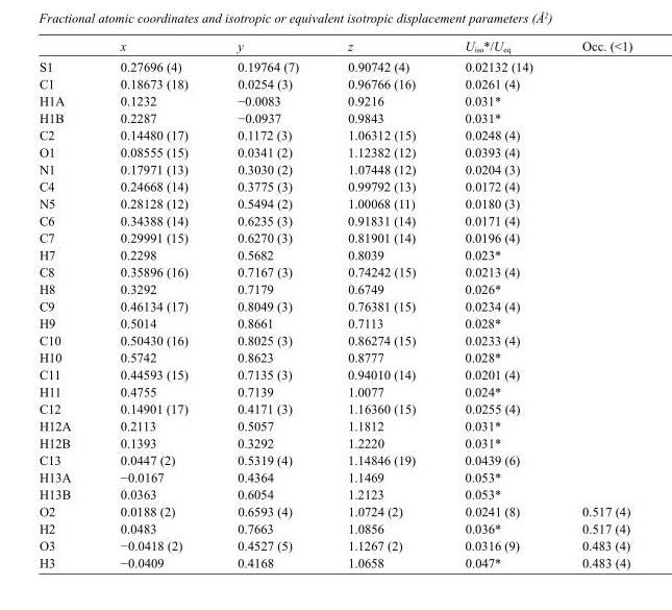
<table><thead><tr><td></td><td>x</td><td>y</td><td>z</td><td>U<sub>iso</sub>*/U<sub>eq</sub></td><td>Occ. (&lt;1)</td></tr></thead><tbody><tr><td>S1</td><td>0.27696 (4)</td><td>0.19764 (7)</td><td>0.90742 (4)</td><td>0.02132 (14)</td><td></td></tr><tr><td>C1</td><td>0.18673 (18)</td><td>0.0254 (3)</td><td>0.96766 (16)</td><td>0.0261 (4)</td><td></td></tr><tr><td>H1A</td><td>0.1232</td><td>−0.0083</td><td>0.9216</td><td>0.031*</td><td></td></tr><tr><td>H1B</td><td>0.2287</td><td>−0.0937</td><td>0.9843</td><td>0.031*</td><td></td></tr><tr><td>C2</td><td>0.14480 (17)</td><td>0.1172 (3)</td><td>1.06312 (15)</td><td>0.0248 (4)</td><td></td></tr><tr><td>O1</td><td>0.08555 (15)</td><td>0.0341 (2)</td><td>1.12382 (12)</td><td>0.0393 (4)</td><td></td></tr><tr><td>N1</td><td>0.17971 (13)</td><td>0.3030 (2)</td><td>1.07448 (12)</td><td>0.0204 (3)</td><td></td></tr><tr><td>C4</td><td>0.24668 (14)</td><td>0.3775 (3)</td><td>0.99792 (13)</td><td>0.0172 (4)</td><td></td></tr><tr><td>N5</td><td>0.28128 (12)</td><td>0.5494 (2)</td><td>1.00068 (11)</td><td>0.0180 (3)</td><td></td></tr><tr><td>C6</td><td>0.34388 (14)</td><td>0.6235 (3)</td><td>0.91831 (14)</td><td>0.0171 (4)</td><td></td></tr><tr><td>C7</td><td>0.29991 (15)</td><td>0.6270 (3)</td><td>0.81901 (14)</td><td>0.0196 (4)</td><td></td></tr><tr><td>H7</td><td>0.2298</td><td>0.5682</td><td>0.8039</td><td>0.023*</td><td></td></tr><tr><td>C8</td><td>0.35896 (16)</td><td>0.7167 (3)</td><td>0.74242 (15)</td><td>0.0213 (4)</td><td></td></tr><tr><td>H8</td><td>0.3292</td><td>0.7179</td><td>0.6749</td><td>0.026*</td><td></td></tr><tr><td>C9</td><td>0.46134 (17)</td><td>0.8049 (3)</td><td>0.76381 (15)</td><td>0.0234 (4)</td><td></td></tr><tr><td>H9</td><td>0.5014</td><td>0.8661</td><td>0.7113</td><td>0.028*</td><td></td></tr><tr><td>C10</td><td>0.50430 (16)</td><td>0.8025 (3)</td><td>0.86274 (15)</td><td>0.0233 (4)</td><td></td></tr><tr><td>H10</td><td>0.5742</td><td>0.8623</td><td>0.8777</td><td>0.028*</td><td></td></tr><tr><td>C11</td><td>0.44593 (15)</td><td>0.7135 (3)</td><td>0.94010 (14)</td><td>0.0201 (4)</td><td></td></tr><tr><td>H11</td><td>0.4755</td><td>0.7139</td><td>1.0077</td><td>0.024*</td><td></td></tr><tr><td>C12</td><td>0.14901 (17)</td><td>0.4171 (3)</td><td>1.16360 (15)</td><td>0.0255 (4)</td><td></td></tr><tr><td>H12A</td><td>0.2113</td><td>0.5057</td><td>1.1812</td><td>0.031*</td><td></td></tr><tr><td>H12B</td><td>0.1393</td><td>0.3292</td><td>1.2220</td><td>0.031*</td><td></td></tr><tr><td>C13</td><td>0.0447 (2)</td><td>0.5319 (4)</td><td>1.14846 (19)</td><td>0.0439 (6)</td><td></td></tr><tr><td>H13A</td><td>−0.0167</td><td>0.4364</td><td>1.1469</td><td>0.053*</td><td></td></tr><tr><td>H13B</td><td>0.0363</td><td>0.6054</td><td>1.2123</td><td>0.053*</td><td></td></tr><tr><td>O2</td><td>0.0188 (2)</td><td>0.6593 (4)</td><td>1.0724 (2)</td><td>0.0241 (8)</td><td>0.517 (4)</td></tr><tr><td>H2</td><td>0.0483</td><td>0.7663</td><td>1.0856</td><td>0.036*</td><td>0.517 (4)</td></tr><tr><td>O3</td><td>−0.0418 (2)</td><td>0.4527 (5)</td><td>1.1267 (2)</td><td>0.0316 (9)</td><td>0.483 (4)</td></tr><tr><td>H3</td><td>−0.0409</td><td>0.4168</td><td>1.0658</td><td>0.047*</td><td>0.483 (4)</td></tr></tbody></table>